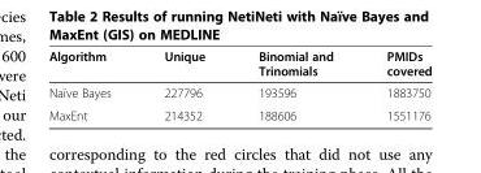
<table><thead><tr><td>Algorithm</td><td>Unique</td><td>Binomial and Trinomials</td><td>PMIDs covered</td></tr></thead><tbody><tr><td>Naïve Bayes</td><td>227796</td><td>193596</td><td>1883750</td></tr><tr><td>MaxEnt</td><td>214352</td><td>188606</td><td>1551176</td></tr></tbody></table>